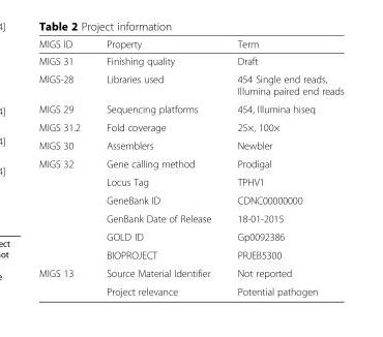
<table><thead><tr><td>MIGS ID</td><td>Property</td><td>Term</td></tr></thead><tbody><tr><td>MIGS 31</td><td>Finishing quality</td><td>Draft</td></tr><tr><td>MIGS-28</td><td>Libraries used</td><td>454 Single end reads, Illumina paired end reads</td></tr><tr><td>MIGS 29</td><td>Sequencing platforms</td><td>454, Illumina hiseq</td></tr><tr><td>MIGS 31.2</td><td>Fold coverage</td><td>25×, 100×</td></tr><tr><td>MIGS 30</td><td>Assemblers</td><td>Newbler</td></tr><tr><td rowspan="6">MIGS 32</td><td>Gene calling method</td><td>Prodigal</td></tr><tr><td>Locus Tag</td><td>TPHV1</td></tr><tr><td>GeneBank ID</td><td>CDNC00000000</td></tr><tr><td>GenBank Date of Release</td><td>18-01-2015</td></tr><tr><td>GOLD ID</td><td>Gp0092386</td></tr><tr><td>BIOPROJECT</td><td>PRJEB5300</td></tr><tr><td rowspan="2">MIGS 13</td><td>Source Material Identifier</td><td>Not reported</td></tr><tr><td>Project relevance</td><td>Potential pathogen</td></tr></tbody></table>